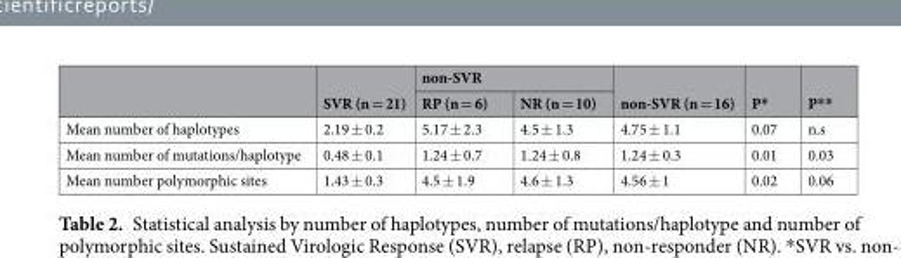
<table><thead><tr><td rowspan="2"></td><td rowspan="2">SVR (n = 21)</td><td colspan="2">non-SVR</td><td rowspan="2">non-SVR (n = 16)</td><td rowspan="2">P*</td><td rowspan="2">P**</td></tr><tr><td>RP (n = 6)</td><td>NR (n = 10)</td></tr></thead><tbody><tr><td>Mean number of haplotypes</td><td>2.19 ± 0.2</td><td>5.17 ± 2.3</td><td>4.5 ± 1.3</td><td>4.75 ± 1.1</td><td>0.07</td><td>n.s</td></tr><tr><td>Mean number of mutations/haplotype</td><td>0.48 ± 0.1</td><td>1.24 ± 0.7</td><td>1.24 ± 0.8</td><td>1.24 ± 0.3</td><td>0.01</td><td>0.03</td></tr><tr><td>Mean number polymorphic sites</td><td>1.43 ± 0.3</td><td>4.5 ± 1.9</td><td>4.6 ± 1.3</td><td>4.56 ± 1</td><td>0.02</td><td>0.06</td></tr></tbody></table>